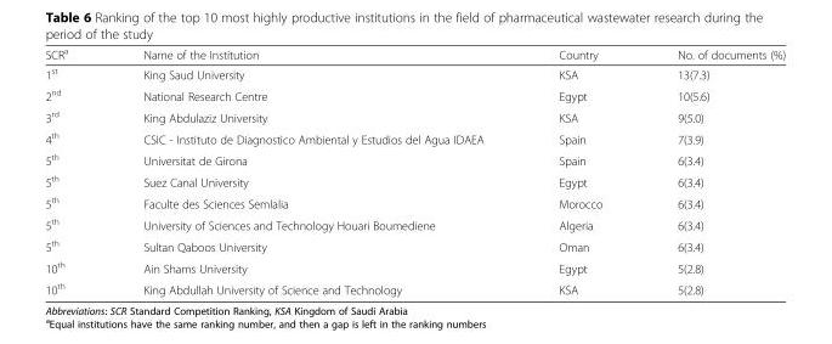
<table><thead><tr><td>SCR<sup>a</sup></td><td>Name of the Institution</td><td>Country</td><td>No. of documents (%)</td></tr></thead><tbody><tr><td>1<sup>st</sup></td><td>King Saud University</td><td>KSA</td><td>13(7.3)</td></tr><tr><td>2<sup>nd</sup></td><td>National Research Centre</td><td>Egypt</td><td>10(5.6)</td></tr><tr><td>3<sup>rd</sup></td><td>King Abdulaziz University</td><td>KSA</td><td>9(5.0)</td></tr><tr><td>4<sup>th</sup></td><td>CSIC - Instituto de Diagnostico Ambiental y Estudios del Agua IDAEA</td><td>Spain</td><td>7(3.9)</td></tr><tr><td>5<sup>th</sup></td><td>Universitat de Girona</td><td>Spain</td><td>6(3.4)</td></tr><tr><td>5<sup>th</sup></td><td>Suez Canal University</td><td>Egypt</td><td>6(3.4)</td></tr><tr><td>5<sup>th</sup></td><td>Faculte des Sciences Semlalia</td><td>Morocco</td><td>6(3.4)</td></tr><tr><td>5<sup>th</sup></td><td>University of Sciences and Technology Houari Boumediene</td><td>Algeria</td><td>6(3.4)</td></tr><tr><td>5<sup>th</sup></td><td>Sultan Qaboos University</td><td>Oman</td><td>6(3.4)</td></tr><tr><td>10<sup>th</sup></td><td>Ain Shams University</td><td>Egypt</td><td>5(2.8)</td></tr><tr><td>10<sup>th</sup></td><td>King Abdullah University of Science and Technology</td><td>KSA</td><td>5(2.8)</td></tr></tbody></table>